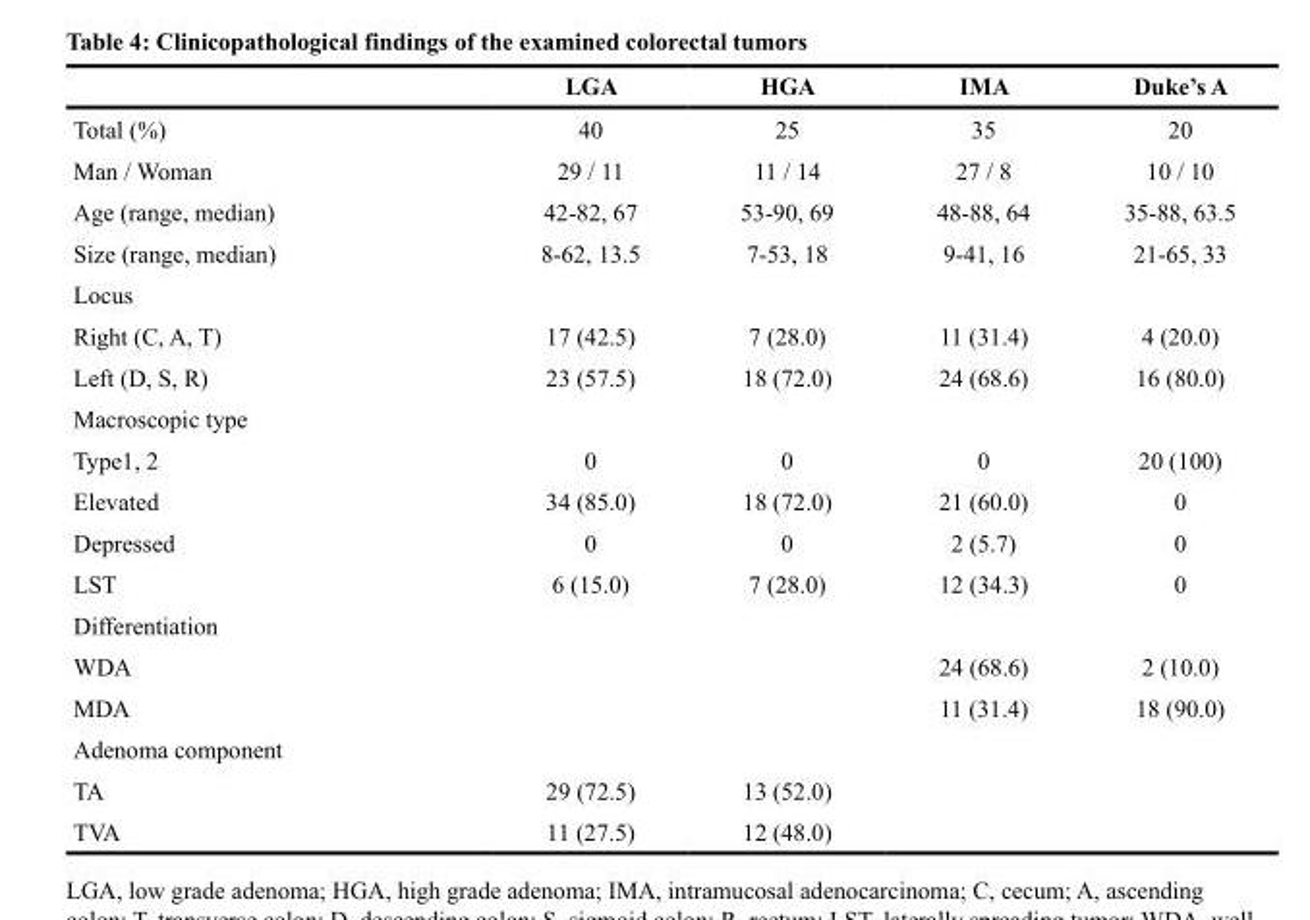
<table><thead><tr><td></td><td>LGA</td><td>HGA</td><td>IMA</td><td>Duke’s A</td></tr></thead><tbody><tr><td>Total (%)</td><td>40</td><td>25</td><td>35</td><td>20</td></tr><tr><td>Man / Woman</td><td>29 / 11</td><td>11 / 14</td><td>27 / 8</td><td>10 / 10</td></tr><tr><td>Age (range, median)</td><td>42-82, 67</td><td>53-90, 69</td><td>48-88, 64</td><td>35-88, 63.5</td></tr><tr><td>Size (range, median)</td><td>8-62, 13.5</td><td>7-53, 18</td><td>9-41, 16</td><td>21-65, 33</td></tr><tr><td colspan="5">Locus</td></tr><tr><td>Right (C, A, T)</td><td>17 (42.5)</td><td>7 (28.0)</td><td>11 (31.4)</td><td>4 (20.0)</td></tr><tr><td>Left (D, S, R)</td><td>23 (57.5)</td><td>18 (72.0)</td><td>24 (68.6)</td><td>16 (80.0)</td></tr><tr><td colspan="5">Macroscopic type</td></tr><tr><td>Type1, 2</td><td>0</td><td>0</td><td>0</td><td>20 (100)</td></tr><tr><td>Elevated</td><td>34 (85.0)</td><td>18 (72.0)</td><td>21 (60.0)</td><td>0</td></tr><tr><td>Depressed</td><td>0</td><td>0</td><td>2 (5.7)</td><td>0</td></tr><tr><td>LST</td><td>6 (15.0)</td><td>7 (28.0)</td><td>12 (34.3)</td><td>0</td></tr><tr><td colspan="5">Differentiation</td></tr><tr><td>WDA</td><td></td><td></td><td>24 (68.6)</td><td>2 (10.0)</td></tr><tr><td>MDA</td><td></td><td></td><td>11 (31.4)</td><td>18 (90.0)</td></tr><tr><td colspan="5">Adenoma component</td></tr><tr><td>TA</td><td>29 (72.5)</td><td>13 (52.0)</td><td></td><td></td></tr><tr><td>TVA</td><td>11 (27.5)</td><td>12 (48.0)</td><td></td><td></td></tr></tbody></table>